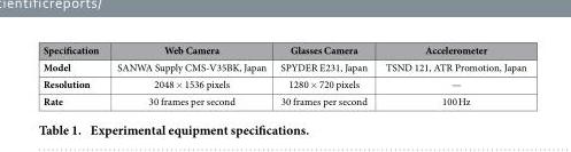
<table><thead><tr><td>Specification</td><td>Web Camera</td><td>Glasses Camera</td><td>Accelerometer</td></tr></thead><tbody><tr><td>Model</td><td>SANWA Supply CMS-V35BK, Japan</td><td>SPYDER E231, Japan</td><td>TSND 121, ATR Promotion, Japan</td></tr><tr><td>Resolution</td><td>2048 × 1536 pixels</td><td>1280 × 720 pixels</td><td>—</td></tr><tr><td>Rate</td><td>30 frames per second</td><td>30 frames per second</td><td>100 Hz</td></tr></tbody></table>